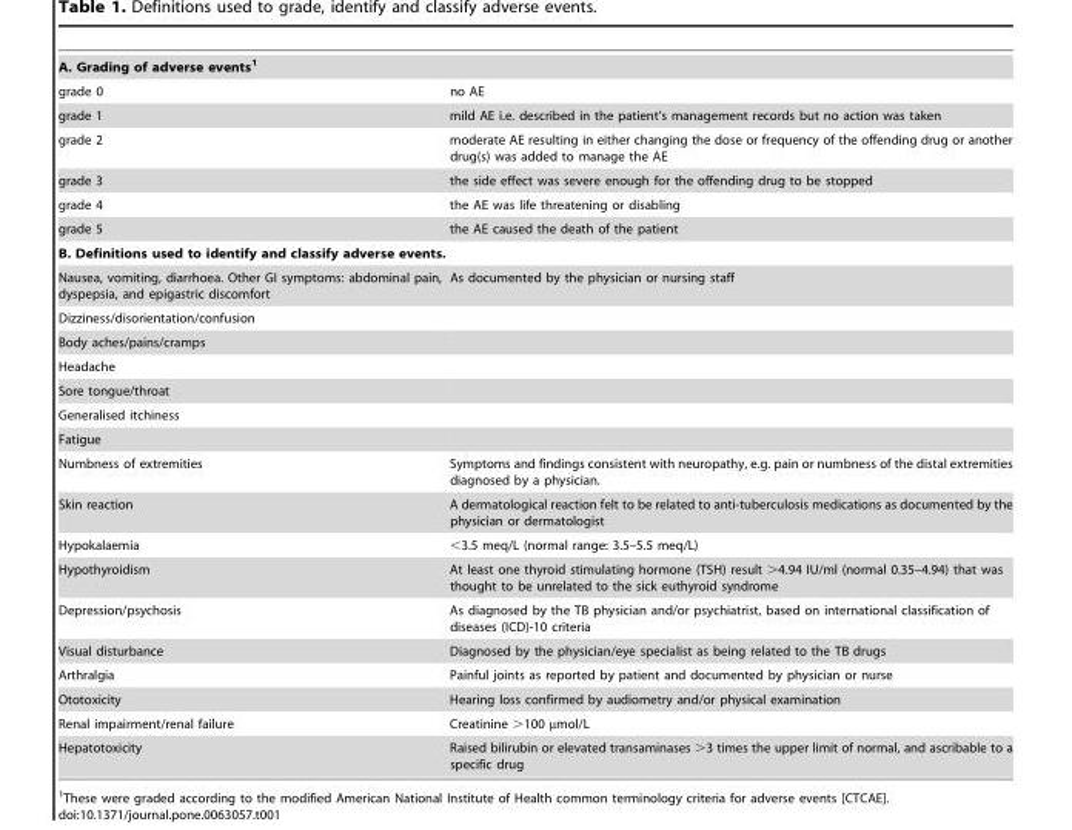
<table><tbody><tr><td colspan="2">A. Grading of adverse events1</td></tr><tr><td>grade 0</td><td>no AE</td></tr><tr><td>grade 1</td><td>mild AE i.e. described in the patient’s management records but no action was taken</td></tr><tr><td>grade 2</td><td>moderate AE resulting in either changing the dose or frequency of the offending drug or another drug(s) was added to manage the AE</td></tr><tr><td>grade 3</td><td>the side effect was severe enough for the offending drug to be stopped</td></tr><tr><td>grade 4</td><td>the AE was life threatening or disabling</td></tr><tr><td>grade 5</td><td>the AE caused the death of the patient</td></tr><tr><td colspan="2">B. Definitions used to identify and classify adverse events.</td></tr><tr><td>Nausea, vomiting, diarrhoea. Other GI symptoms: abdominal pain, dyspepsia, and epigastric discomfort</td><td>As documented by the physician or nursing staff</td></tr><tr><td colspan="2">Dizziness/disorientation/confusion</td></tr><tr><td colspan="2">Body aches/pains/cramps</td></tr><tr><td colspan="2">Headache</td></tr><tr><td colspan="2">Sore tongue/throat</td></tr><tr><td colspan="2">Generalised itchiness</td></tr><tr><td colspan="2">Fatigue</td></tr><tr><td>Numbness of extremities</td><td>Symptoms and findings consistent with neuropathy, e.g. pain or numbness of the distal extremities diagnosed by a physician.</td></tr><tr><td>Skin reaction</td><td>A dermatological reaction felt to be related to anti-tuberculosis medications as documented by the physician or dermatologist</td></tr><tr><td>Hypokalaemia</td><td>&lt;3.5 meq/L (normal range: 3.5–5.5 meq/L)</td></tr><tr><td>Hypothyroidism</td><td>At least one thyroid stimulating hormone (TSH) result &gt;4.94 IU/ml (normal 0.35–4.94) that was thought to be unrelated to the sick euthyroid syndrome</td></tr><tr><td>Depression/psychosis</td><td>As diagnosed by the TB physician and/or psychiatrist, based on international classification of diseases (ICD)-10 criteria</td></tr><tr><td>Visual disturbance</td><td>Diagnosed by the physician/eye specialist as being related to the TB drugs</td></tr><tr><td>Arthralgia</td><td>Painful joints as reported by patient and documented by physician or nurse</td></tr><tr><td>Ototoxicity</td><td>Hearing loss confirmed by audiometry and/or physical examination</td></tr><tr><td>Renal impairment/renal failure</td><td>Creatinine &gt;100 µmol/L</td></tr><tr><td>Hepatotoxicity</td><td>Raised bilirubin or elevated transaminases &gt;3 times the upper limit of normal, and ascribable to a specific drug</td></tr></tbody></table>